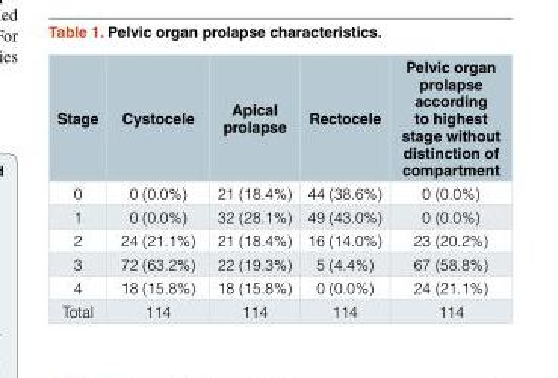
<table><thead><tr><td>Stage</td><td>Cystocele</td><td>Apical prolapse</td><td>Rectocele</td><td>Pelvic organ prolapse according to highest stage without distinction of compartment</td></tr></thead><tbody><tr><td>0</td><td>0 (0.0%)</td><td>21 (18.4%)</td><td>44 (38.6%)</td><td>0 (0.0%)</td></tr><tr><td>1</td><td>0 (0.0%)</td><td>32 (28.1%)</td><td>49 (43.0%)</td><td>0 (0.0%)</td></tr><tr><td>2</td><td>24 (21.1%)</td><td>21 (18.4%)</td><td>16 (14.0%)</td><td>23 (20.2%)</td></tr><tr><td>3</td><td>72 (63.2%)</td><td>22 (19.3%)</td><td>5 (4.4%)</td><td>67 (58.8%)</td></tr><tr><td>4</td><td>18 (15.8%)</td><td>18 (15.8%)</td><td>0 (0.0%)</td><td>24 (21.1%)</td></tr><tr><td>Total</td><td>114</td><td>114</td><td>114</td><td>114</td></tr></tbody></table>